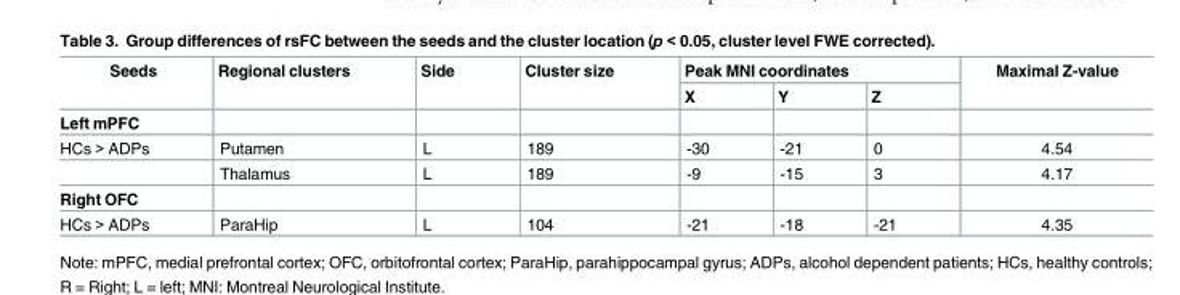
<table><thead><tr><td rowspan="2">Seeds</td><td rowspan="2">Regional clusters</td><td rowspan="2">Side</td><td rowspan="2">Cluster size</td><td colspan="3">Peak MNI coordinates</td><td rowspan="2">Maximal Z-value</td></tr><tr><td>X</td><td>Y</td><td>Z</td></tr></thead><tbody><tr><td colspan="8">Left mPFC</td></tr><tr><td rowspan="2">HCs &gt; ADPs</td><td>Putamen</td><td>L</td><td>189</td><td>-30</td><td>-21</td><td>0</td><td>4.54</td></tr><tr><td>Thalamus</td><td>L</td><td>189</td><td>-9</td><td>-15</td><td>3</td><td>4.17</td></tr><tr><td colspan="8">Right OFC</td></tr><tr><td>HCs &gt; ADPs</td><td>ParaHip</td><td>L</td><td>104</td><td>-21</td><td>-18</td><td>-21</td><td>4.35</td></tr></tbody></table>